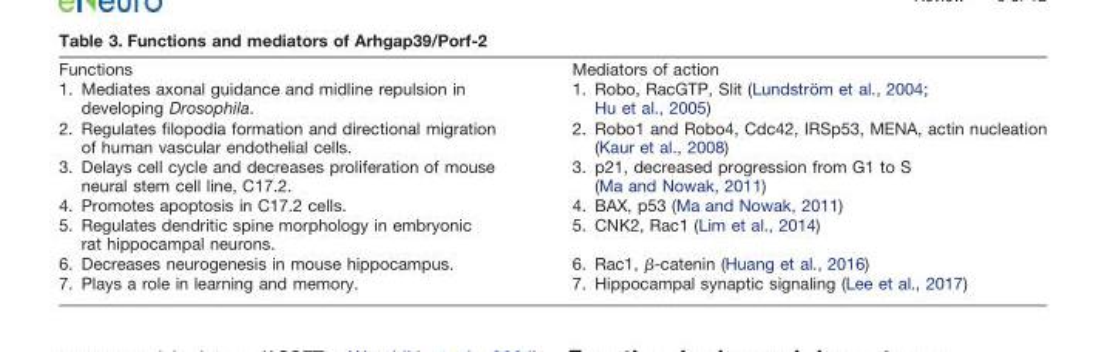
<table><thead><tr><td>Functions</td><td>Mediators of action</td></tr></thead><tbody><tr><td>1. Mediates axonal guidance and midline repulsion in developing Drosophila.</td><td>1. Robo, RacGTP, Slit (Lundström et al., 2004; Hu et al., 2005)</td></tr><tr><td>2. Regulates filopodia formation and directional migration of human vascular endothelial cells.</td><td>2. Robo1 and Robo4, Cdc42, IRSp53, MENA, actin nucleation (Kaur et al., 2008)</td></tr><tr><td>3. Delays cell cycle and decreases proliferation of mouse neural stem cell line, C17.2.</td><td>3. p21, decreased progression from G1 to S (Ma and Nowak, 2011)</td></tr><tr><td>4. Promotes apoptosis in C17.2 cells.</td><td>4. BAX, p53 (Ma and Nowak, 2011)</td></tr><tr><td>5. Regulates dendritic spine morphology in embryonic rat hippocampal neurons.</td><td>5. CNK2, Rac1 (Lim et al., 2014)</td></tr><tr><td>6. Decreases neurogenesis in mouse hippocampus.</td><td>6. Rac1, β-catenin (Huang et al., 2016)</td></tr><tr><td>7. Plays a role in learning and memory.</td><td>7. Hippocampal synaptic signaling (Lee et al., 2017)</td></tr></tbody></table>